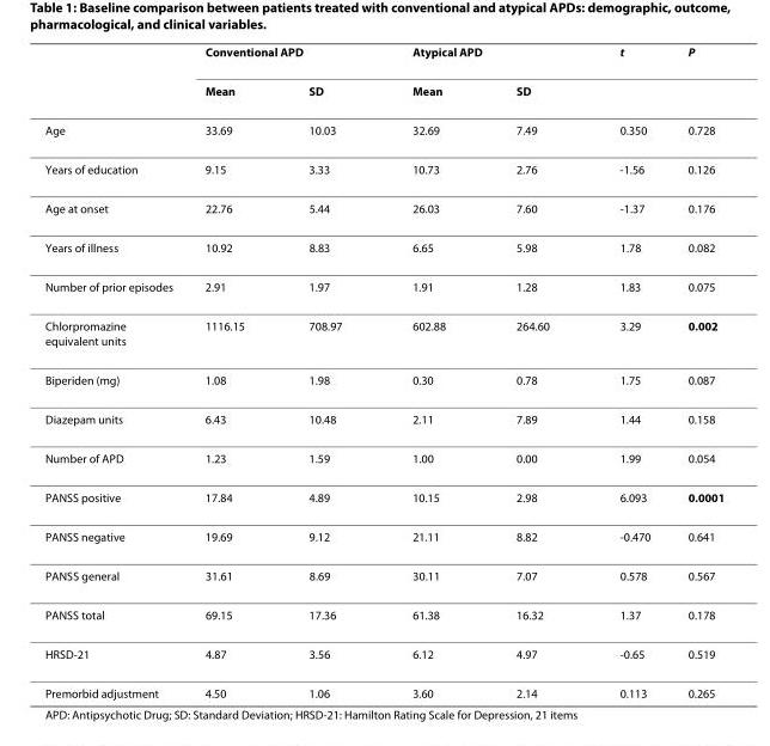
<table><thead><tr><td rowspan="2"></td><td colspan="2">Conventional APD</td><td colspan="2">Atypical APD</td><td rowspan="2">t</td><td rowspan="2">P</td></tr><tr><td>Mean</td><td>SD</td><td>Mean</td><td>SD</td></tr></thead><tbody><tr><td>Age</td><td>33.69</td><td>10.03</td><td>32.69</td><td>7.49</td><td>0.350</td><td>0.728</td></tr><tr><td>Years of education</td><td>9.15</td><td>3.33</td><td>10.73</td><td>2.76</td><td>-1.56</td><td>0.126</td></tr><tr><td>Age at onset</td><td>22.76</td><td>5.44</td><td>26.03</td><td>7.60</td><td>-1.37</td><td>0.176</td></tr><tr><td>Years of illness</td><td>10.92</td><td>8.83</td><td>6.65</td><td>5.98</td><td>1.78</td><td>0.082</td></tr><tr><td>Number of prior episodes</td><td>2.91</td><td>1.97</td><td>1.91</td><td>1.28</td><td>1.83</td><td>0.075</td></tr><tr><td>Chlorpromazine equivalent units</td><td>1116.15</td><td>708.97</td><td>602.88</td><td>264.60</td><td>3.29</td><td>0.002</td></tr><tr><td>Biperiden (mg)</td><td>1.08</td><td>1.98</td><td>0.30</td><td>0.78</td><td>1.75</td><td>0.087</td></tr><tr><td>Diazepam units</td><td>6.43</td><td>10.48</td><td>2.11</td><td>7.89</td><td>1.44</td><td>0.158</td></tr><tr><td>Number of APD</td><td>1.23</td><td>1.59</td><td>1.00</td><td>0.00</td><td>1.99</td><td>0.054</td></tr><tr><td>PANSS positive</td><td>17.84</td><td>4.89</td><td>10.15</td><td>2.98</td><td>6.093</td><td>0.0001</td></tr><tr><td>PANSS negative</td><td>19.69</td><td>9.12</td><td>21.11</td><td>8.82</td><td>-0.470</td><td>0.641</td></tr><tr><td>PANSS general</td><td>31.61</td><td>8.69</td><td>30.11</td><td>7.07</td><td>0.578</td><td>0.567</td></tr><tr><td>PANSS total</td><td>69.15</td><td>17.36</td><td>61.38</td><td>16.32</td><td>1.37</td><td>0.178</td></tr><tr><td>HRSD-21</td><td>4.87</td><td>3.56</td><td>6.12</td><td>4.97</td><td>-0.65</td><td>0.519</td></tr><tr><td>Premorbid adjustment</td><td>4.50</td><td>1.06</td><td>3.60</td><td>2.14</td><td>0.113</td><td>0.265</td></tr></tbody></table>